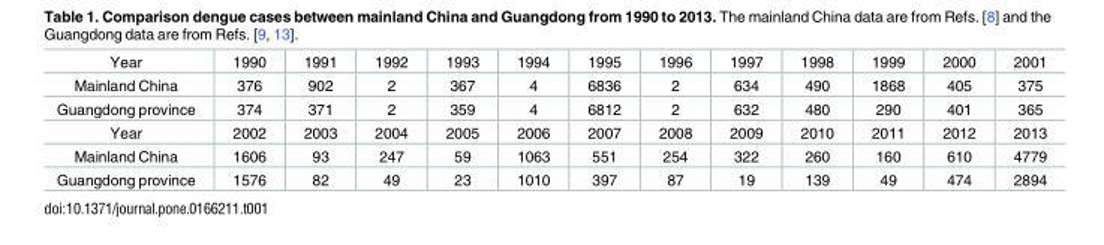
<table><tbody><tr><td>Year</td><td>1990</td><td>1991</td><td>1992</td><td>1993</td><td>1994</td><td>1995</td><td>1996</td><td>1997</td><td>1998</td><td>1999</td><td>2000</td><td>2001</td></tr><tr><td>Mainland China</td><td>376</td><td>902</td><td>2</td><td>367</td><td>4</td><td>6836</td><td>2</td><td>634</td><td>490</td><td>1868</td><td>405</td><td>375</td></tr><tr><td>Guangdong province</td><td>374</td><td>371</td><td>2</td><td>359</td><td>4</td><td>6812</td><td>2</td><td>632</td><td>480</td><td>290</td><td>401</td><td>365</td></tr><tr><td>Year</td><td>2002</td><td>2003</td><td>2004</td><td>2005</td><td>2006</td><td>2007</td><td>2008</td><td>2009</td><td>2010</td><td>2011</td><td>2012</td><td>2013</td></tr><tr><td>Mainland China</td><td>1606</td><td>93</td><td>247</td><td>59</td><td>1063</td><td>551</td><td>254</td><td>322</td><td>260</td><td>160</td><td>610</td><td>4779</td></tr><tr><td>Guangdong province</td><td>1576</td><td>82</td><td>49</td><td>23</td><td>1010</td><td>397</td><td>87</td><td>19</td><td>139</td><td>49</td><td>474</td><td>2894</td></tr></tbody></table>